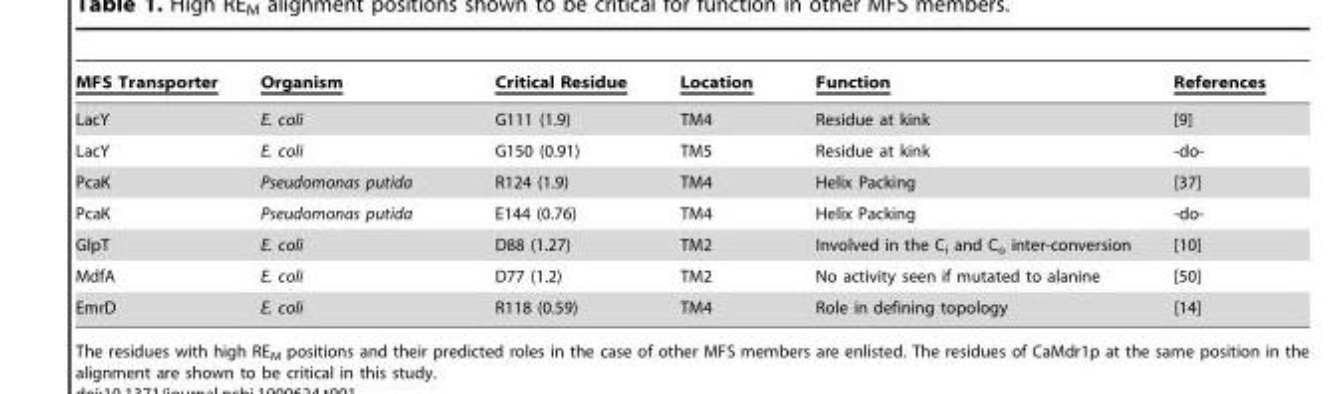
<table><thead><tr><td>MFS Transporter</td><td>Organism</td><td>Critical Residue</td><td>Location</td><td>Function</td><td>References</td></tr></thead><tbody><tr><td>LacY</td><td>E. coli</td><td>G111 (1.9)</td><td>TM4</td><td>Residue at kink</td><td>[9]</td></tr><tr><td>LacY</td><td>E. coli</td><td>G150 (0.91)</td><td>TM5</td><td>Residue at kink</td><td>-do-</td></tr><tr><td>PcaK</td><td>Pseudomonas putida</td><td>R124 (1.9)</td><td>TM4</td><td>Helix Packing</td><td>[37]</td></tr><tr><td>PcaK</td><td>Pseudomonas putida</td><td>E144 (0.76)</td><td>TM4</td><td>Helix Packing</td><td>-do-</td></tr><tr><td>GlpT</td><td>E. coli</td><td>D88 (1.27)</td><td>TM2</td><td>Involved in the C<sub>i</sub> and C<sub>o</sub> inter-conversion</td><td>[10]</td></tr><tr><td>MdfA</td><td>E. coli</td><td>D77 (1.2)</td><td>TM2</td><td>No activity seen if mutated to alanine</td><td>[50]</td></tr><tr><td>EmrD</td><td>E. coli</td><td>R118 (0.59)</td><td>TM4</td><td>Role in defining topology</td><td>[14]</td></tr></tbody></table>